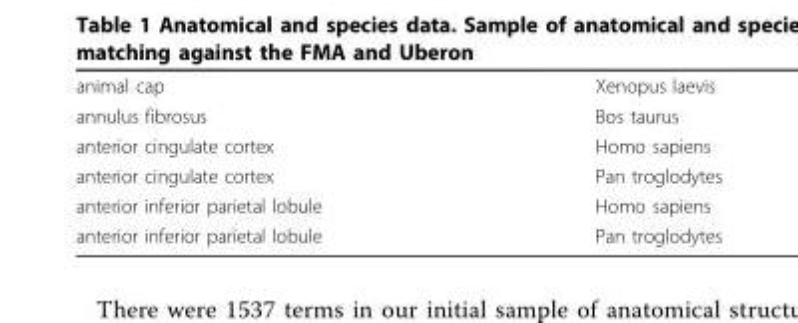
<table><tbody><tr><td>animal cap</td><td>Xenopus laevis</td></tr><tr><td>annulus fibrosus</td><td>Bos taurus</td></tr><tr><td>anterior cingulate cortex</td><td>Homo sapiens</td></tr><tr><td>anterior cingulate cortex</td><td>Pan troglodytes</td></tr><tr><td>anterior inferior parietal lobule</td><td>Homo sapiens</td></tr><tr><td>anterior inferior parietal lobule</td><td>Pan troglodytes</td></tr></tbody></table>